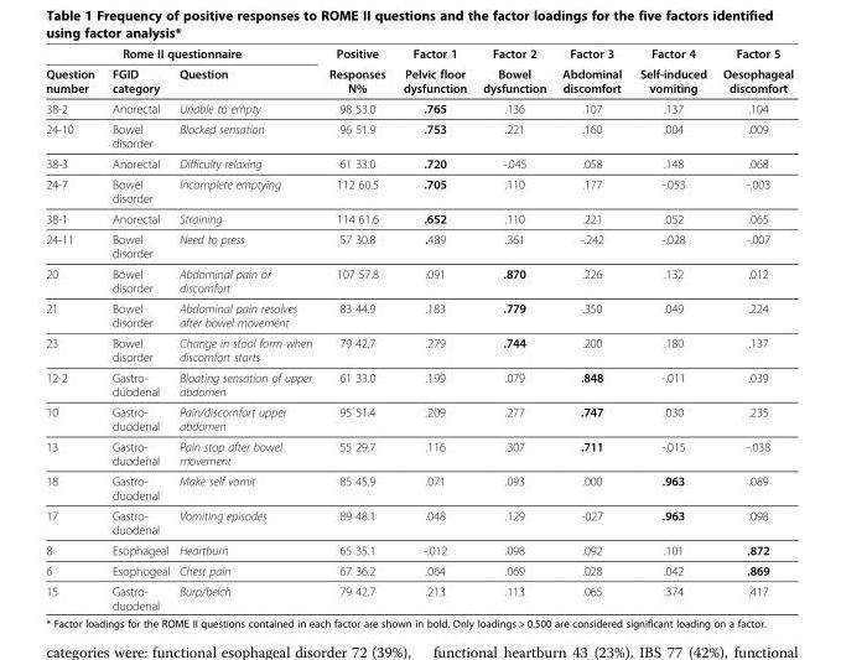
<table><thead><tr><td colspan="3">Rome II questionnaire</td><td rowspan="2">Positive Responses N%</td><td rowspan="2">Factor 1 Pelvic floor dysfunction</td><td rowspan="2">Factor 2 Bowel dysfunction</td><td rowspan="2">Factor 3 Abdominal discomfort</td><td rowspan="2">Factor 4 Self-induced vomiting</td><td rowspan="2">Factor 5 Oesophageal discomfort</td></tr><tr><td>Question number</td><td>FGID category</td><td>Question</td></tr></thead><tbody><tr><td>38-2</td><td>Anorectal</td><td>Unable to empty</td><td>98 53.0</td><td>.765</td><td>.136</td><td>.107</td><td>.137</td><td>.104</td></tr><tr><td>24-10</td><td>Bowel disorder</td><td>Blocked sensation</td><td>96 51.9</td><td>.753</td><td>.221</td><td>.160</td><td>.004</td><td>.009</td></tr><tr><td>38-3</td><td>Anorectal</td><td>Difficulty relaxing</td><td>61 33.0</td><td>.720</td><td>-.045</td><td>.058</td><td>.148</td><td>.068</td></tr><tr><td>24-7</td><td>Bowel disorder</td><td>Incomplete emptying</td><td>112 60.5</td><td>.705</td><td>.110</td><td>.177</td><td>-.053</td><td>-.003</td></tr><tr><td>38-1</td><td>Anorectal</td><td>Straining</td><td>114 61.6</td><td>.652</td><td>.110</td><td>.221</td><td>.052</td><td>.065</td></tr><tr><td>24-11</td><td>Bowel disorder</td><td>Need to press</td><td>57 30.8</td><td>.489</td><td>.361</td><td>-.242</td><td>-.028</td><td>-.007</td></tr><tr><td>20</td><td>Bowel disorder</td><td>Abdominal pain or discomfort</td><td>107 57.8</td><td>.091</td><td>.870</td><td>.226</td><td>.132</td><td>.012</td></tr><tr><td>21</td><td>Bowel disorder</td><td>Abdominal pain resolves after bowel movement</td><td>83 44.9</td><td>.183</td><td>.779</td><td>.350</td><td>.049</td><td>.224</td></tr><tr><td>23</td><td>Bowel disorder</td><td>Change in stool form when discomfort starts</td><td>79 42.7</td><td>.279</td><td>.744</td><td>.200</td><td>.180</td><td>.137</td></tr><tr><td>12-2</td><td>Gastro- duodenal</td><td>Bloating sensation of upper abdomen</td><td>61 33.0</td><td>.199</td><td>.079</td><td>.848</td><td>-.011</td><td>.039</td></tr><tr><td>10</td><td>Gastro- duodenal</td><td>Pain/discomfort upper abdomen</td><td>95 51.4</td><td>.209</td><td>.277</td><td>.747</td><td>.030</td><td>.235</td></tr><tr><td>13</td><td>Gastro- duodenal</td><td>Pain stop after bowel movement</td><td>55 29.7</td><td>.116</td><td>.307</td><td>.711</td><td>-.015</td><td>-.038</td></tr><tr><td>18</td><td>Gastro- duodenal</td><td>Make self vomit</td><td>85 45.9</td><td>.071</td><td>.093</td><td>.000</td><td>.963</td><td>.089</td></tr><tr><td>17</td><td>Gastro- duodenal</td><td>Vomiting episodes</td><td>89 48.1</td><td>.048</td><td>.129</td><td>-027</td><td>.963</td><td>.098</td></tr><tr><td>8</td><td>Esophageal</td><td>Heartburn</td><td>65 35.1</td><td>-.012</td><td>.098</td><td>.092</td><td>.101</td><td>.872</td></tr><tr><td>6</td><td>Esophogeal</td><td>Chest pain</td><td>67 36.2</td><td>.064</td><td>.069</td><td>.028</td><td>.042</td><td>.869</td></tr><tr><td>15</td><td>Gastro- duodenal</td><td>Burp/belch</td><td>79 42.7</td><td>.213</td><td>.113</td><td>.065</td><td>.374</td><td>.417</td></tr></tbody></table>